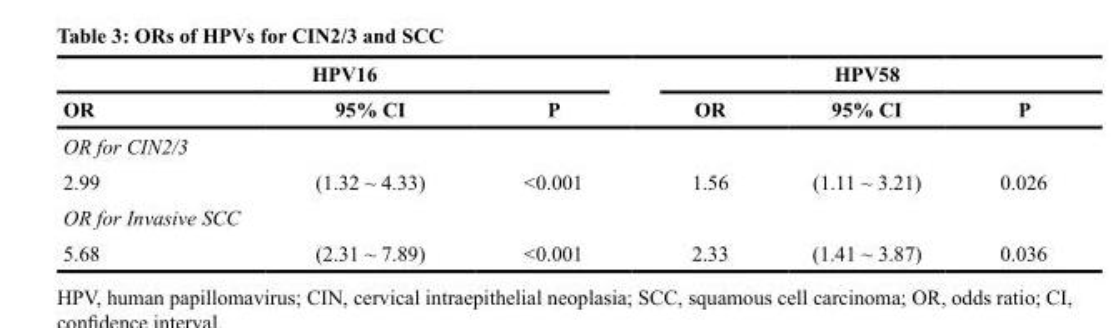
<table><thead><tr><td colspan="3">HPV16</td><td colspan="3">HPV58</td></tr><tr><td>OR</td><td>95% CI</td><td>P</td><td>OR</td><td>95% CI</td><td>P</td></tr></thead><tbody><tr><td colspan="6">OR for CIN2/3</td></tr><tr><td>2.99</td><td>(1.32 ~ 4.33)</td><td>&lt;0.001</td><td>1.56</td><td>(1.11 ~ 3.21)</td><td>0.026</td></tr><tr><td colspan="6">OR for Invasive SCC</td></tr><tr><td>5.68</td><td>(2.31 ~ 7.89)</td><td>&lt;0.001</td><td>2.33</td><td>(1.41 ~ 3.87)</td><td>0.036</td></tr></tbody></table>